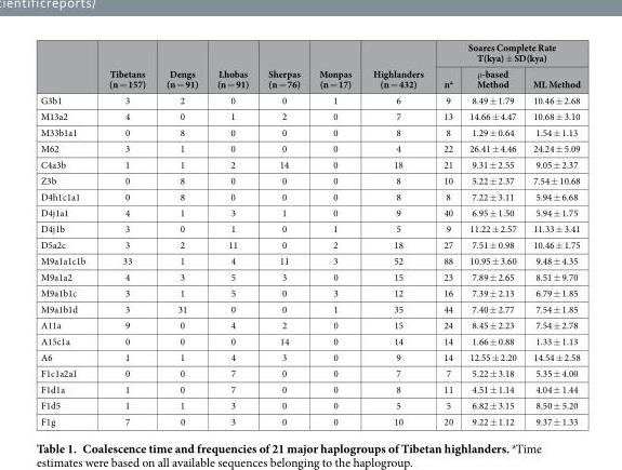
<table><thead><tr><td rowspan="2"></td><td rowspan="2">Tibetans (n = 157)</td><td rowspan="2">Dengs (n = 91)</td><td rowspan="2">Lhobas (n = 91)</td><td rowspan="2">Sherpas (n = 76)</td><td rowspan="2">Monpas (n = 17)</td><td rowspan="2">Highlanders (n = 432)</td><td colspan="3">Soares Complete Rate T(kya) ± SD(kya)</td></tr><tr><td>n<sup>a</sup></td><td>ρ -based Method</td><td>ML Method</td></tr></thead><tbody><tr><td>G3b1</td><td>3</td><td>2</td><td>0</td><td>0</td><td>1</td><td>6</td><td>9</td><td>8.49 ± 1.79</td><td>10.46 ± 2.68</td></tr><tr><td>M13a2</td><td>4</td><td>0</td><td>1</td><td>2</td><td>0</td><td>7</td><td>13</td><td>14.66 ± 4.47</td><td>10.68 ± 3.10</td></tr><tr><td>M33b1a1</td><td>0</td><td>8</td><td>0</td><td>0</td><td>0</td><td>8</td><td>8</td><td>1.29 ± 0.64</td><td>1.54 ± 1.13</td></tr><tr><td>M62</td><td>3</td><td>1</td><td>0</td><td>0</td><td>0</td><td>4</td><td>22</td><td>26.41 ± 4.46</td><td>24.24 ± 5.09</td></tr><tr><td>C4a3b</td><td>1</td><td>1</td><td>2</td><td>14</td><td>0</td><td>18</td><td>21</td><td>9.31 ± 2.55</td><td>9.05 ± 2.37</td></tr><tr><td>Z3b</td><td>0</td><td>8</td><td>0</td><td>0</td><td>0</td><td>8</td><td>10</td><td>5.22 ± 2.37</td><td>7.54 ± 10.68</td></tr><tr><td>D4h1c1a1</td><td>0</td><td>8</td><td>0</td><td>0</td><td>0</td><td>8</td><td>8</td><td>7.22 ± 3.11</td><td>5.94 ± 6.68</td></tr><tr><td>D4j1a1</td><td>4</td><td>1</td><td>3</td><td>1</td><td>0</td><td>9</td><td>40</td><td>6.95 ± 1.50</td><td>5.94 ± 1.75</td></tr><tr><td>D4j1b</td><td>3</td><td>0</td><td>1</td><td>0</td><td>1</td><td>5</td><td>9</td><td>11.22 ± 2.57</td><td>11.33 ± 3.41</td></tr><tr><td>D5a2c</td><td>3</td><td>2</td><td>11</td><td>0</td><td>2</td><td>18</td><td>27</td><td>7.51 ± 0.98</td><td>10.46 ± 1.75</td></tr><tr><td>M9a1a1c1b</td><td>33</td><td>1</td><td>4</td><td>11</td><td>3</td><td>52</td><td>88</td><td>10.95 ± 3.60</td><td>9.48 ± 4.35</td></tr><tr><td>M9a1a2</td><td>4</td><td>3</td><td>5</td><td>3</td><td>0</td><td>15</td><td>23</td><td>7.89 ± 2.65</td><td>8.51 ± 9.70</td></tr><tr><td>M9a1b1c</td><td>3</td><td>1</td><td>5</td><td>0</td><td>3</td><td>12</td><td>16</td><td>7.39 ± 2.13</td><td>6.79 ± 1.85</td></tr><tr><td>M9a1b1d</td><td>3</td><td>31</td><td>0</td><td>0</td><td>1</td><td>35</td><td>44</td><td>7.40 ± 2.77</td><td>7.54 ± 1.85</td></tr><tr><td>A11a</td><td>9</td><td>0</td><td>4</td><td>2</td><td>0</td><td>15</td><td>24</td><td>8.45 ± 2.23</td><td>7.54 ± 2.78</td></tr><tr><td>A15c1a</td><td>0</td><td>0</td><td>0</td><td>14</td><td>0</td><td>14</td><td>14</td><td>1.66 ± 0.88</td><td>1.33 ± 1.13</td></tr><tr><td>A6</td><td>1</td><td>1</td><td>4</td><td>3</td><td>0</td><td>9</td><td>14</td><td>12.55 ± 2.20</td><td>14.54 ± 2.58</td></tr><tr><td>F1c1a2a1</td><td>0</td><td>0</td><td>7</td><td>0</td><td>0</td><td>7</td><td>7</td><td>5.22 ± 3.18</td><td>5.35 ± 4.00</td></tr><tr><td>F1d1a</td><td>1</td><td>0</td><td>7</td><td>0</td><td>0</td><td>8</td><td>11</td><td>4.51 ± 1.14</td><td>4.04 ± 1.44</td></tr><tr><td>F1d5</td><td>1</td><td>1</td><td>3</td><td>0</td><td>0</td><td>5</td><td>5</td><td>6.82 ± 3.15</td><td>8.50 ± 5.20</td></tr><tr><td>F1g</td><td>7</td><td>0</td><td>3</td><td>0</td><td>0</td><td>10</td><td>20</td><td>9.22 ± 1.12</td><td>9.37 ± 1.33</td></tr></tbody></table>